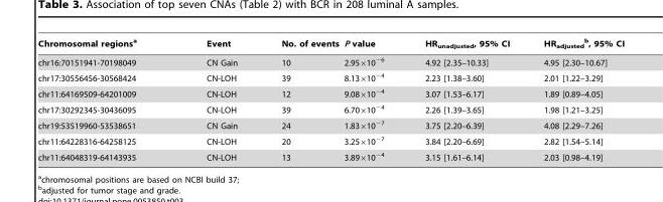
<table><thead><tr><td>Chromosomal regions<sup>a</sup></td><td>Event</td><td>No. of events</td><td>P value</td><td>HR<sub>unadjusted</sub>, 95% CI</td><td>HR<sub>adjusted</sub> b, 95% CI</td></tr></thead><tbody><tr><td>chr16:70151941-70198049</td><td>CN Gain</td><td>10</td><td>2.95×10<sup>−6</sup></td><td>4.92 [2.35–10.33]</td><td>4.95 [2.30–10.67]</td></tr><tr><td>chr17:30556456-30568424</td><td>CN-LOH</td><td>39</td><td>8.13×10<sup>−4</sup></td><td>2.23 [1.38–3.60]</td><td>2.01 [1.22–3.29]</td></tr><tr><td>chr11:64169509-64201009</td><td>CN-LOH</td><td>12</td><td>9.08×10<sup>−4</sup></td><td>3.07 [1.53–6.17]</td><td>1.89 [0.89–4.05]</td></tr><tr><td>chr17:30292345-30436095</td><td>CN-LOH</td><td>39</td><td>6.70×10<sup>−4</sup></td><td>2.26 [1.39–3.65]</td><td>1.98 [1.21–3.25]</td></tr><tr><td>chr19:53519960-53538651</td><td>CN Gain</td><td>24</td><td>1.83×10<sup>−7</sup></td><td>3.75 [2.20–6.39]</td><td>4.08 [2.29–7.26]</td></tr><tr><td>chr11:64228316-64258125</td><td>CN-LOH</td><td>20</td><td>3.25×10<sup>−7</sup></td><td>3.84 [2.20–6.69]</td><td>2.82 [1.54–5.14]</td></tr><tr><td>chr11:64048319-64143935</td><td>CN-LOH</td><td>13</td><td>3.89×10<sup>−4</sup></td><td>3.15 [1.61–6.14]</td><td>2.03 [0.98–4.19]</td></tr></tbody></table>